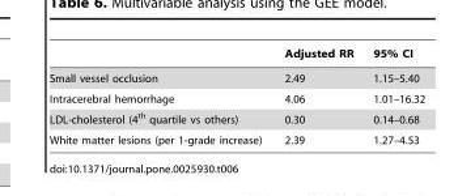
<table><thead><tr><td></td><td>Adjusted RR</td><td>95% CI</td></tr></thead><tbody><tr><td>Small vessel occlusion</td><td>2.49</td><td>1.15–5.40</td></tr><tr><td>Intracerebral hemorrhage</td><td>4.06</td><td>1.01–16.32</td></tr><tr><td>LDL-cholesterol (4<sup>th</sup> quartile vs others)</td><td>0.30</td><td>0.14–0.68</td></tr><tr><td>White matter lesions (per 1-grade increase)</td><td>2.39</td><td>1.27–4.53</td></tr></tbody></table>